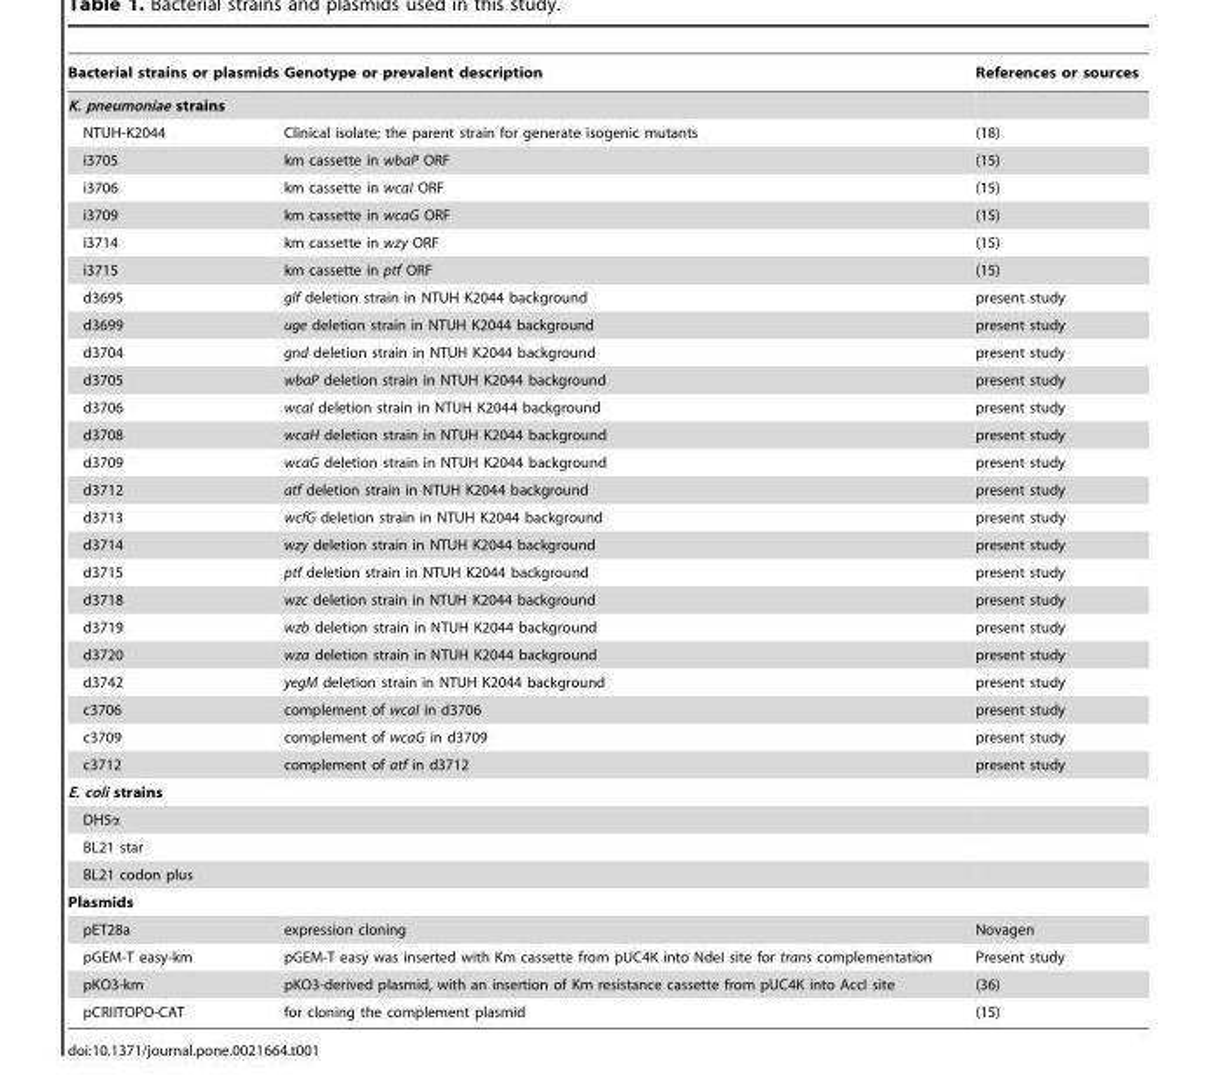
<table><thead><tr><td>Bacterial strains or plasmids</td><td>Genotype or prevalent description</td><td>References or sources</td></tr></thead><tbody><tr><td colspan="3">K. pneumoniae strains</td></tr><tr><td>NTUH-K2044</td><td>Clinical isolate; the parent strain for generate isogenic mutants</td><td>(18)</td></tr><tr><td>i3705</td><td>km cassette in wbaP ORF</td><td>(15)</td></tr><tr><td>i3706</td><td>km cassette in wcaI ORF</td><td>(15)</td></tr><tr><td>i3709</td><td>km cassette in wcaG ORF</td><td>(15)</td></tr><tr><td>i3714</td><td>km cassette in wzy ORF</td><td>(15)</td></tr><tr><td>i3715</td><td>km cassette in ptf ORF</td><td>(15)</td></tr><tr><td>d3695</td><td>glf deletion strain in NTUH K2044 background</td><td>present study</td></tr><tr><td>d3699</td><td>uge deletion strain in NTUH K2044 background</td><td>present study</td></tr><tr><td>d3704</td><td>gnd deletion strain in NTUH K2044 background</td><td>present study</td></tr><tr><td>d3705</td><td>wbaP deletion strain in NTUH K2044 background</td><td>present study</td></tr><tr><td>d3706</td><td>wcaI deletion strain in NTUH K2044 background</td><td>present study</td></tr><tr><td>d3708</td><td>wcaH deletion strain in NTUH K2044 background</td><td>present study</td></tr><tr><td>d3709</td><td>wcaG deletion strain in NTUH K2044 background</td><td>present study</td></tr><tr><td>d3712</td><td>atf deletion strain in NTUH K2044 background</td><td>present study</td></tr><tr><td>d3713</td><td>wcfG deletion strain in NTUH K2044 background</td><td>present study</td></tr><tr><td>d3714</td><td>wzy deletion strain in NTUH K2044 background</td><td>present study</td></tr><tr><td>d3715</td><td>ptf deletion strain in NTUH K2044 background</td><td>present study</td></tr><tr><td>d3718</td><td>wzc deletion strain in NTUH K2044 background</td><td>present study</td></tr><tr><td>d3719</td><td>wzb deletion strain in NTUH K2044 background</td><td>present study</td></tr><tr><td>d3720</td><td>wza deletion strain in NTUH K2044 background</td><td>present study</td></tr><tr><td>d3742</td><td>yegM deletion strain in NTUH K2044 background</td><td>present study</td></tr><tr><td>c3706</td><td>complement of wcaI in d3706</td><td>present study</td></tr><tr><td>c3709</td><td>complement of wcaG in d3709</td><td>present study</td></tr><tr><td>c3712</td><td>complement of atf in d3712</td><td>present study</td></tr><tr><td colspan="3">E. coli strains</td></tr><tr><td colspan="3">DH5α</td></tr><tr><td colspan="3">BL21 star</td></tr><tr><td colspan="3">BL21 codon plus</td></tr><tr><td colspan="3">Plasmids</td></tr><tr><td>pET28a</td><td>expression cloning</td><td>Novagen</td></tr><tr><td>pGEM-T easy-km</td><td>pGEM-T easy was inserted with Km cassette from pUC4K into NdeI site for trans complementation</td><td>Present study</td></tr><tr><td>pKO3-km</td><td>pKO3-derived plasmid, with an insertion of Km resistance cassette from pUC4K into AccI site</td><td>(36)</td></tr><tr><td>pCRIITOPO-CAT</td><td>for cloning the complement plasmid</td><td>(15)</td></tr></tbody></table>